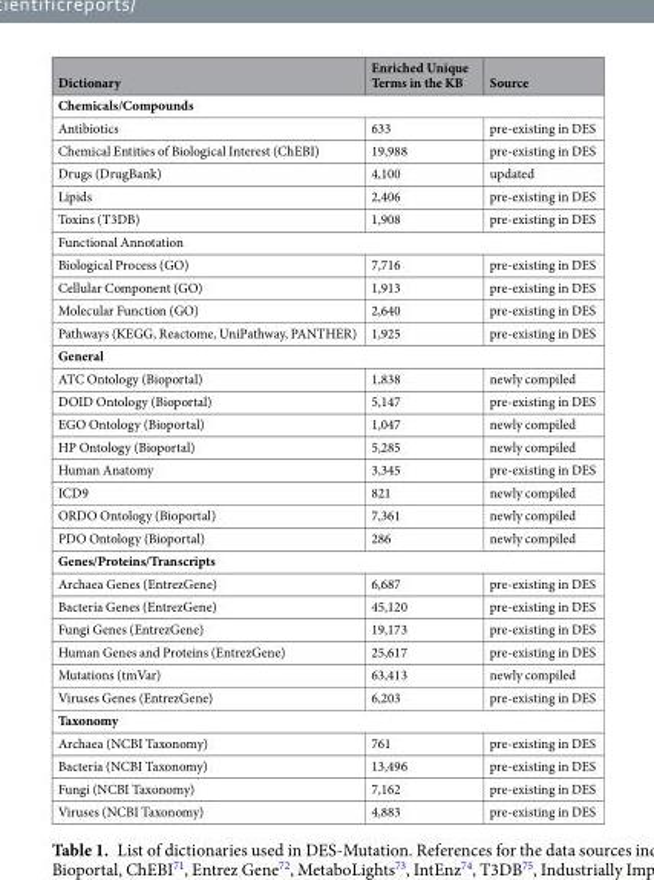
<table><thead><tr><td>Dictionary</td><td>Enriched Unique Terms in the KB</td><td>Source</td></tr></thead><tbody><tr><td colspan="3">Chemicals/Compounds</td></tr><tr><td>Antibiotics</td><td>633</td><td>pre-existing in DES</td></tr><tr><td>Chemical Entities of Biological Interest (ChEBI)</td><td>19,988</td><td>pre-existing in DES</td></tr><tr><td>Drugs (DrugBank)</td><td>4,100</td><td>updated</td></tr><tr><td>Lipids</td><td>2,406</td><td>pre-existing in DES</td></tr><tr><td>Toxins (T3DB)</td><td>1,908</td><td>pre-existing in DES</td></tr><tr><td colspan="3">Functional Annotation</td></tr><tr><td>Biological Process (GO)</td><td>7,716</td><td>pre-existing in DES</td></tr><tr><td>Cellular Component (GO)</td><td>1,913</td><td>pre-existing in DES</td></tr><tr><td>Molecular Function (GO)</td><td>2,640</td><td>pre-existing in DES</td></tr><tr><td>Pathways (KEGG, Reactome, UniPathway, PANTHER)</td><td>1,925</td><td>pre-existing in DES</td></tr><tr><td colspan="3">General</td></tr><tr><td>ATC Ontology (Bioportal)</td><td>1,838</td><td>newly compiled</td></tr><tr><td>DOID Ontology (Bioportal)</td><td>5,147</td><td>pre-existing in DES</td></tr><tr><td>EGO Ontology (Bioportal)</td><td>1,047</td><td>newly compiled</td></tr><tr><td>HP Ontology (Bioportal)</td><td>5,285</td><td>newly compiled</td></tr><tr><td>Human Anatomy</td><td>3,345</td><td>pre-existing in DES</td></tr><tr><td>ICD9</td><td>821</td><td>newly compiled</td></tr><tr><td>ORDO Ontology (Bioportal)</td><td>7,361</td><td>newly compiled</td></tr><tr><td>PDO Ontology (Bioportal)</td><td>286</td><td>newly compiled</td></tr><tr><td colspan="3">Genes/Proteins/Transcripts</td></tr><tr><td>Archaea Genes (EntrezGene)</td><td>6,687</td><td>pre-existing in DES</td></tr><tr><td>Bacteria Genes (EntrezGene)</td><td>45,120</td><td>pre-existing in DES</td></tr><tr><td>Fungi Genes (EntrezGene)</td><td>19,173</td><td>pre-existing in DES</td></tr><tr><td>Human Genes and Proteins (EntrezGene)</td><td>25,617</td><td>pre-existing in DES</td></tr><tr><td>Mutations (tmVar)</td><td>63,413</td><td>newly compiled</td></tr><tr><td>Viruses Genes (EntrezGene)</td><td>6,203</td><td>pre-existing in DES</td></tr><tr><td colspan="3">Taxonomy</td></tr><tr><td>Archaea (NCBI Taxonomy)</td><td>761</td><td>pre-existing in DES</td></tr><tr><td>Bacteria (NCBI Taxonomy)</td><td>13,496</td><td>pre-existing in DES</td></tr><tr><td>Fungi (NCBI Taxonomy)</td><td>7,162</td><td>pre-existing in DES</td></tr><tr><td>Viruses (NCBI Taxonomy)</td><td>4,883</td><td>pre-existing in DES</td></tr></tbody></table>